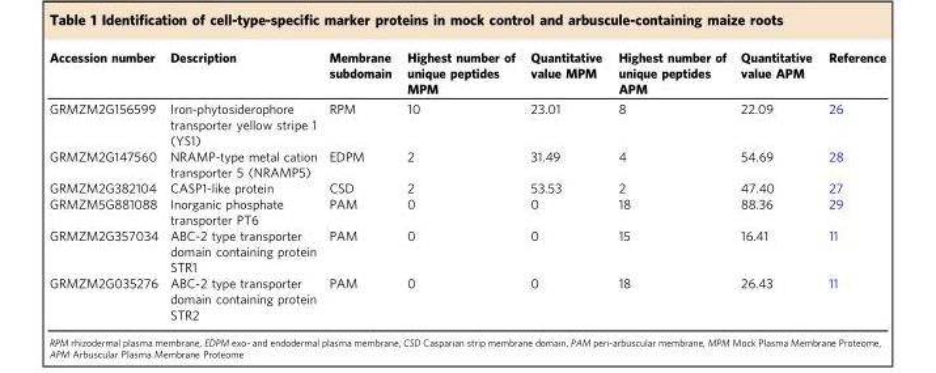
<table><thead><tr><td>Accession number</td><td>Description</td><td>Membrane subdomain</td><td>Highest number of unique peptides MPM</td><td>Quantitative value MPM</td><td>Highest number of unique peptides APM</td><td>Quantitative value APM</td><td>Reference</td></tr></thead><tbody><tr><td>GRMZM2G156599</td><td>Iron-phytosiderophore transporter yellow stripe 1 (YS1)</td><td>RPM</td><td>10</td><td>23.01</td><td>8</td><td>22.09</td><td>26</td></tr><tr><td>GRMZM2G147560</td><td>NRAMP-type metal cation transporter 5 (NRAMP5)</td><td>EDPM</td><td>2</td><td>31.49</td><td>4</td><td>54.69</td><td>28</td></tr><tr><td>GRMZM2G382104</td><td>CASP1-like protein</td><td>CSD</td><td>2</td><td>53.53</td><td>2</td><td>47.40</td><td>27</td></tr><tr><td>GRMZM5G881088</td><td>Inorganic phosphate transporter PT6</td><td>PAM</td><td>0</td><td>0</td><td>18</td><td>88.36</td><td>29</td></tr><tr><td>GRMZM2G357034</td><td>ABC-2 type transporter domain containing protein STR1</td><td>PAM</td><td>0</td><td>0</td><td>15</td><td>16.41</td><td>11</td></tr><tr><td>GRMZM2G035276</td><td>ABC-2 type transporter domain containing protein STR2</td><td>PAM</td><td>0</td><td>0</td><td>18</td><td>26.43</td><td>11</td></tr></tbody></table>